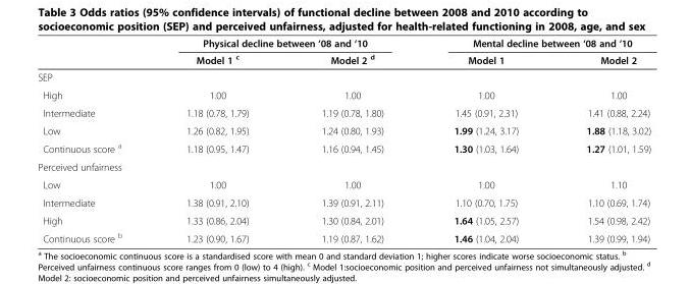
<table><thead><tr><td rowspan="2"></td><td colspan="2">Physical decline between ‘08 and ‘10</td><td colspan="2">Mental decline between ‘08 and ‘10</td></tr><tr><td>Model 1 <sup>c</sup></td><td>Model 2 <sup>d</sup></td><td>Model 1</td><td>Model 2</td></tr></thead><tbody><tr><td colspan="5">SEP</td></tr><tr><td>High</td><td>1.00</td><td>1.00</td><td>1.00</td><td>1.00</td></tr><tr><td>Intermediate</td><td>1.18 (0.78, 1.79)</td><td>1.19 (0.78, 1.80)</td><td>1.45 (0.91, 2.31)</td><td>1.41 (0.88, 2.24)</td></tr><tr><td>Low</td><td>1.26 (0.82, 1.95)</td><td>1.24 (0.80, 1.93)</td><td>1.99 (1.24, 3.17)</td><td>1.88 (1.18, 3.02)</td></tr><tr><td>Continuous score <sup>a</sup></td><td>1.18 (0.95, 1.47)</td><td>1.16 (0.94, 1.45)</td><td>1.30 (1.03, 1.64)</td><td>1.27 (1.01, 1.59)</td></tr><tr><td colspan="5">Perceived unfairness</td></tr><tr><td>Low</td><td>1.00</td><td>1.00</td><td>1.00</td><td>1.10</td></tr><tr><td>Intermediate</td><td>1.38 (0.91, 2.10)</td><td>1.39 (0.91, 2.11)</td><td>1.10 (0.70, 1.75)</td><td>1.10 (0.69, 1.74)</td></tr><tr><td>High</td><td>1.33 (0.86, 2.04)</td><td>1.30 (0.84, 2.01)</td><td>1.64 (1.05, 2.57)</td><td>1.54 (0.98, 2.42)</td></tr><tr><td>Continuous score <sup>b</sup></td><td>1.23 (0.90, 1.67)</td><td>1.19 (0.87, 1.62)</td><td>1.46 (1.04, 2.04)</td><td>1.39 (0.99, 1.94)</td></tr></tbody></table>